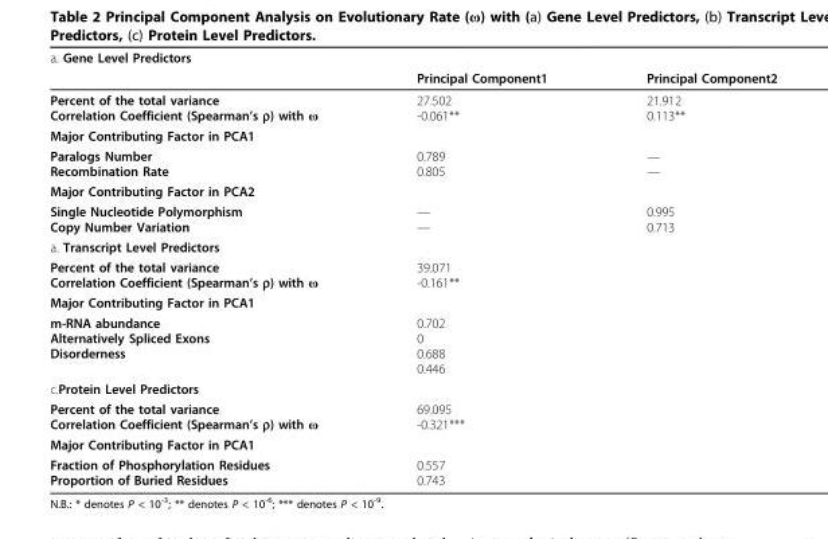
<table><thead><tr><td colspan="3">a. Gene Level Predictors</td></tr><tr><td></td><td>Principal Component1</td><td>Principal Component2</td></tr></thead><tbody><tr><td>Percent of the total variance Correlation Coefficient (Spearman’s ρ) with ω</td><td>27.502 -0.061**</td><td>21.912 0.113**</td></tr><tr><td colspan="3">Major Contributing Factor in PCA1</td></tr><tr><td>Paralogs Number Recombination Rate</td><td>0.789 0.805</td><td>— —</td></tr><tr><td colspan="3">Major Contributing Factor in PCA2</td></tr><tr><td>Single Nucleotide Polymorphism Copy Number Variation</td><td>— —</td><td>0.995 0.713</td></tr><tr><td colspan="3">a. Transcript Level Predictors</td></tr><tr><td>Percent of the total variance Correlation Coefficient (Spearman’s ρ) with ω</td><td>39.071 -0.161**</td><td></td></tr><tr><td colspan="3">Major Contributing Factor in PCA1</td></tr><tr><td>m-RNA abundance Alternatively Spliced Exons Disorderness</td><td>0.702 0 0.688 0.446</td><td></td></tr><tr><td colspan="3">c.Protein Level Predictors</td></tr><tr><td>Percent of the total variance Correlation Coefficient (Spearman’s ρ) with ω</td><td>69.095 -0.321***</td><td></td></tr><tr><td colspan="3">Major Contributing Factor in PCA1</td></tr><tr><td>Fraction of Phosphorylation Residues Proportion of Buried Residues</td><td>0.557 0.743</td><td></td></tr></tbody></table>